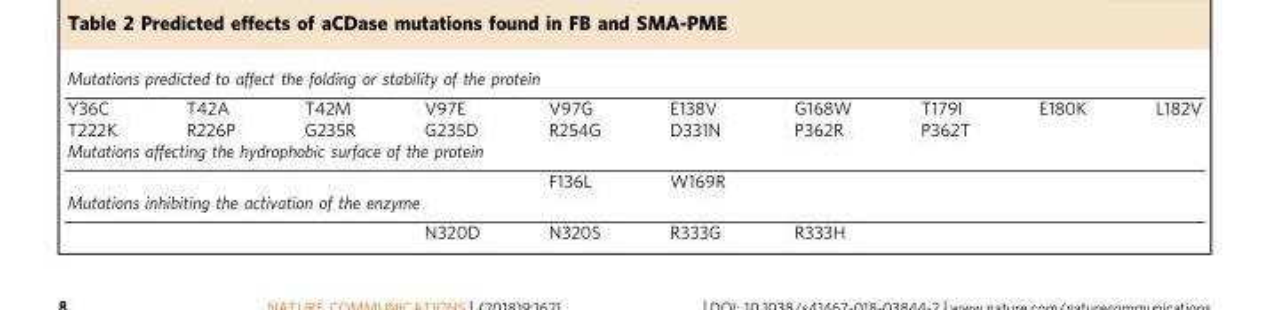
<table><tbody><tr><td colspan="10">Mutations predicted to affect the folding or stability of the protein</td></tr><tr><td>Y36C</td><td>T42A</td><td>T42M</td><td>V97E</td><td>V97G</td><td>E138V</td><td>G168W</td><td>T179I</td><td>E180K</td><td>L182V</td></tr><tr><td>T222K</td><td>R226P</td><td>G235R</td><td>G235D</td><td>R254G</td><td>D331N</td><td>P362R</td><td>P362T</td><td></td><td></td></tr><tr><td colspan="10">Mutations affecting the hydrophobic surface of the protein</td></tr><tr><td></td><td></td><td></td><td></td><td>F136L</td><td>W169R</td><td></td><td></td><td></td><td></td></tr><tr><td colspan="10">Mutations inhibiting the activation of the enzyme</td></tr><tr><td></td><td></td><td></td><td>N320D</td><td>N320S</td><td>R333G</td><td>R333H</td><td></td><td></td><td></td></tr></tbody></table>